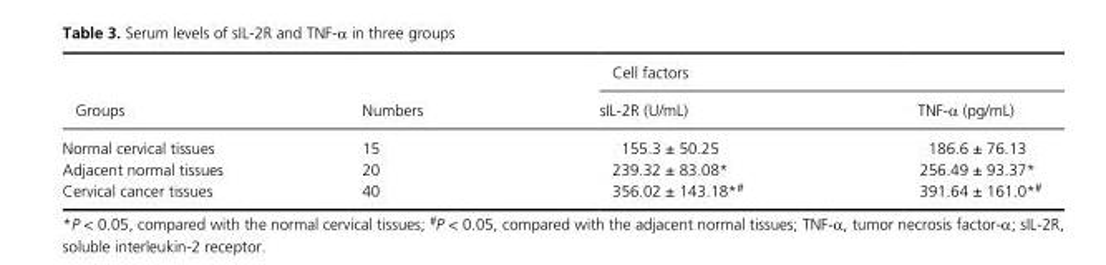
<table><thead><tr><td rowspan="2">Groups</td><td rowspan="2">Numbers</td><td colspan="2">Cell factors</td></tr><tr><td>sIL- 2R (U/mL)</td><td>TNF- α (pg/mL)</td></tr></thead><tbody><tr><td>Normal cervical tissues</td><td>15</td><td>155.3 ± 50.25</td><td>186.6 ± 76.13</td></tr><tr><td>Adjacent normal tissues</td><td>20</td><td>239.32 ± 83.08*</td><td>256.49 ± 93.37*</td></tr><tr><td>Cervical cancer tissues</td><td>40</td><td>356.02 ± 143.18*#</td><td>391.64 ± 161.0*#</td></tr></tbody></table>